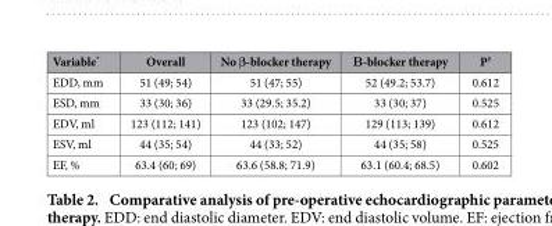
<table><thead><tr><td>Variable*</td><td>Overall</td><td>No β-blocker therapy</td><td>Β-blocker therapy</td><td>P†</td></tr></thead><tbody><tr><td>EDD, mm</td><td>51 (49; 54)</td><td>51 (47; 55)</td><td>52 (49.2; 53.7)</td><td>0.612</td></tr><tr><td>ESD, mm</td><td>33 (30; 36)</td><td>33 (29.5; 35.2)</td><td>33 (30; 37)</td><td>0.525</td></tr><tr><td>EDV, ml</td><td>123 (112; 141)</td><td>123 (102; 147)</td><td>129 (113; 139)</td><td>0.612</td></tr><tr><td>ESV, ml</td><td>44 (35; 54)</td><td>44 (33; 52)</td><td>44 (35; 58)</td><td>0.525</td></tr><tr><td>EF, %</td><td>63.4 (60; 69)</td><td>63.6 (58.8; 71.9)</td><td>63.1 (60.4; 68.5)</td><td>0.602</td></tr></tbody></table>